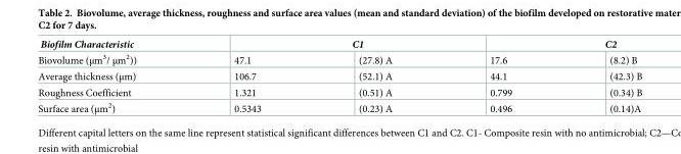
<table><thead><tr><td rowspan="2">Biofilm Characteristic Biovolume (μm<sup>3</sup>/ μm<sup>2</sup>))</td><td colspan="2">C1</td><td colspan="2">C2</td></tr><tr><td>47.1</td><td>(27.8) A</td><td>17.6</td><td>(8.2) B</td></tr></thead><tbody><tr><td>Average thickness (μm)</td><td>106.7</td><td>(52.1) A</td><td>44.1</td><td>(42.3) B</td></tr><tr><td>Roughness Coefficient</td><td>1.321</td><td>(0.51) A</td><td>0.799</td><td>(0.34) B</td></tr><tr><td>Surface area (μm<sup>2</sup>)</td><td>0.5343</td><td>(0.23) A</td><td>0.496</td><td>(0.14)A</td></tr></tbody></table>